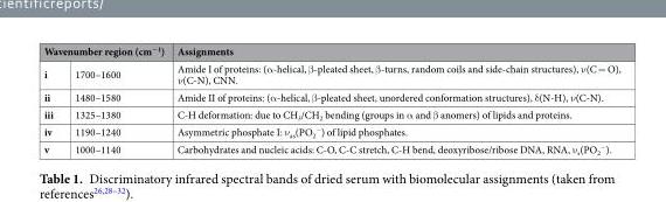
<table><thead><tr><td colspan="2">Wavenumber region (cm<sup>−1</sup>)</td><td rowspan="2">Assignments Amide I of proteins: (α-helical, β-pleated sheet, β-turns, random coils and side-chain structures), ν(C = O), ν(C-N), CNN.</td></tr><tr><td>i</td><td>1700–1600</td></tr></thead><tbody><tr><td>ii</td><td>1480–1580</td><td>Amide II of proteins: (α-helical, β-pleated sheet, unordered conformation structures), δ(N-H), ν(C-N).</td></tr><tr><td>iii</td><td>1325–1380</td><td>C-H deformation: due to CH<sub>3</sub>/CH<sub>2</sub> bending (groups in α and β anomers) of lipids and proteins.</td></tr><tr><td>iv</td><td>1190–1240</td><td>Asymmetric phosphate I: ν<sub>as</sub>(PO<sub>2</sub> <sup>−</sup>) of lipid phosphates.</td></tr><tr><td>v</td><td>1000–1140</td><td>Carbohydrates and nucleic acids: C-O, C-C stretch, C-H bend, deoxyribose/ribose DNA, RNA, ν<sub>s</sub>(PO<sub>2</sub> <sup>−</sup>).</td></tr></tbody></table>